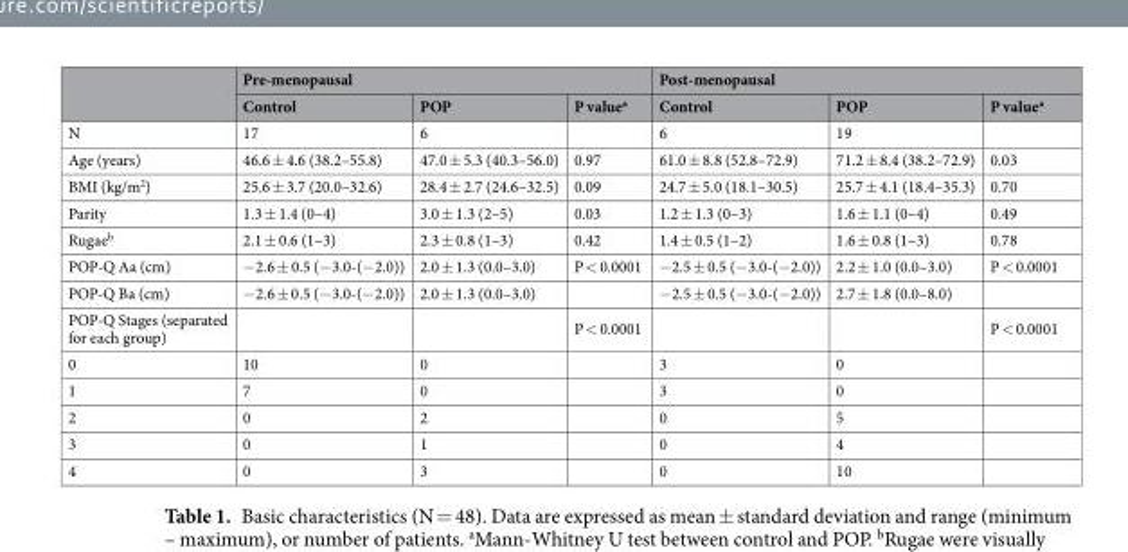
<table><thead><tr><td rowspan="2"></td><td colspan="3">Pre-menopausal</td><td colspan="3">Post-menopausal</td></tr><tr><td>Control</td><td>POP</td><td>P value<sup>a</sup></td><td>Control</td><td>POP</td><td>P value<sup>a</sup></td></tr></thead><tbody><tr><td>N</td><td>17</td><td>6</td><td></td><td>6</td><td>19</td><td></td></tr><tr><td>Age (years)</td><td>46.6 ± 4.6 (38.2–55.8)</td><td>47.0 ± 5.3 (40.3–56.0)</td><td>0.97</td><td>61.0 ± 8.8 (52.8–72.9)</td><td>71.2 ± 8.4 (38.2–72.9)</td><td>0.03</td></tr><tr><td>BMI (kg/m<sup>2</sup>)</td><td>25.6 ± 3.7 (20.0–32.6)</td><td>28.4 ± 2.7 (24.6–32.5)</td><td>0.09</td><td>24.7 ± 5.0 (18.1–30.5)</td><td>25.7 ± 4.1 (18.4–35.3)</td><td>0.70</td></tr><tr><td>Parity</td><td>1.3 ± 1.4 (0–4)</td><td>3.0 ± 1.3 (2–5)</td><td>0.03</td><td>1.2 ± 1.3 (0–3)</td><td>1.6 ± 1.1 (0–4)</td><td>0.49</td></tr><tr><td>Rugae<sup>b</sup></td><td>2.1 ± 0.6 (1–3)</td><td>2.3 ± 0.8 (1–3)</td><td>0.42</td><td>1.4 ± 0.5 (1–2)</td><td>1.6 ± 0.8 (1–3)</td><td>0.78</td></tr><tr><td>POP-Q Aa (cm)</td><td>−2.6 ± 0.5 (−3.0-(−2.0))</td><td>2.0 ± 1.3 (0.0–3.0)</td><td>P &lt; 0.0001</td><td>−2.5 ± 0.5 (−3.0-(−2.0))</td><td>2.2 ± 1.0 (0.0–3.0)</td><td>P &lt; 0.0001</td></tr><tr><td>POP-Q Ba (cm)</td><td>−2.6 ± 0.5 (−3.0-(−2.0))</td><td>2.0 ± 1.3 (0.0–3.0)</td><td></td><td>−2.5 ± 0.5 (−3.0-(−2.0))</td><td>2.7 ± 1.8 (0.0–8.0)</td><td></td></tr><tr><td>POP-Q Stages (separated for each group)</td><td></td><td></td><td>P &lt; 0.0001</td><td></td><td></td><td>P &lt; 0.0001</td></tr><tr><td>0</td><td>10</td><td>0</td><td></td><td>3</td><td>0</td><td></td></tr><tr><td>1</td><td>7</td><td>0</td><td></td><td>3</td><td>0</td><td></td></tr><tr><td>2</td><td>0</td><td>2</td><td></td><td>0</td><td>5</td><td></td></tr><tr><td>3</td><td>0</td><td>1</td><td></td><td>0</td><td>4</td><td></td></tr><tr><td>4</td><td>0</td><td>3</td><td></td><td>0</td><td>10</td><td></td></tr></tbody></table>